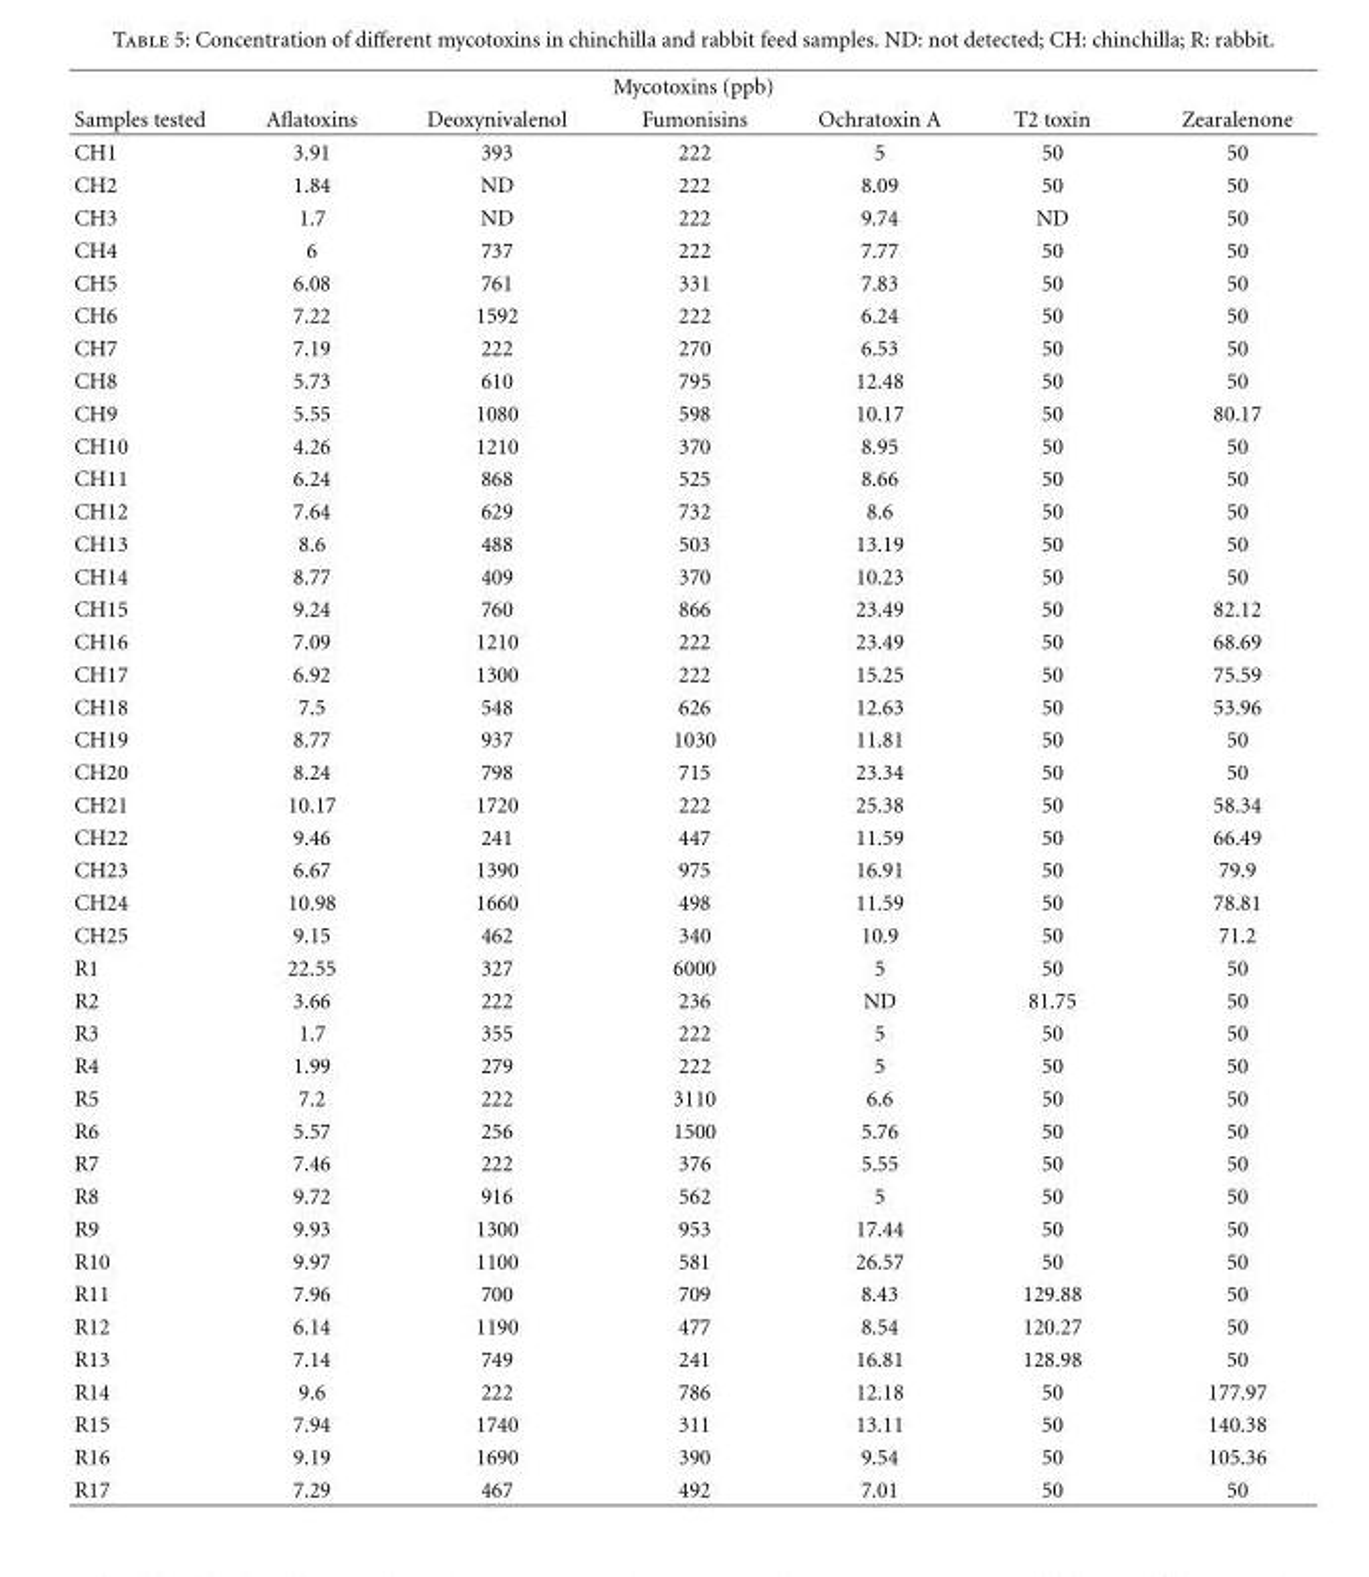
<table><thead><tr><td colspan="7">Mycotoxins (ppb)</td></tr><tr><td>Samples tested</td><td>Aflatoxins</td><td>Deoxynivalenol</td><td>Fumonisins</td><td>Ochratoxin A</td><td>T2 toxin</td><td>Zearalenone</td></tr></thead><tbody><tr><td>CH1</td><td>3.91</td><td>393</td><td>222</td><td>5</td><td>50</td><td>50</td></tr><tr><td>CH2</td><td>1.84</td><td>ND</td><td>222</td><td>8.09</td><td>50</td><td>50</td></tr><tr><td>CH3</td><td>1.7</td><td>ND</td><td>222</td><td>9.74</td><td>ND</td><td>50</td></tr><tr><td>CH4</td><td>6</td><td>737</td><td>222</td><td>7.77</td><td>50</td><td>50</td></tr><tr><td>CH5</td><td>6.08</td><td>761</td><td>331</td><td>7.83</td><td>50</td><td>50</td></tr><tr><td>CH6</td><td>7.22</td><td>1592</td><td>222</td><td>6.24</td><td>50</td><td>50</td></tr><tr><td>CH7</td><td>7.19</td><td>222</td><td>270</td><td>6.53</td><td>50</td><td>50</td></tr><tr><td>CH8</td><td>5.73</td><td>610</td><td>795</td><td>12.48</td><td>50</td><td>50</td></tr><tr><td>CH9</td><td>5.55</td><td>1080</td><td>598</td><td>10.17</td><td>50</td><td>80.17</td></tr><tr><td>CH10</td><td>4.26</td><td>1210</td><td>370</td><td>8.95</td><td>50</td><td>50</td></tr><tr><td>CH11</td><td>6.24</td><td>868</td><td>525</td><td>8.66</td><td>50</td><td>50</td></tr><tr><td>CH12</td><td>7.64</td><td>629</td><td>732</td><td>8.6</td><td>50</td><td>50</td></tr><tr><td>CH13</td><td>8.6</td><td>488</td><td>503</td><td>13.19</td><td>50</td><td>50</td></tr><tr><td>CH14</td><td>8.77</td><td>409</td><td>370</td><td>10.23</td><td>50</td><td>50</td></tr><tr><td>CH15</td><td>9.24</td><td>760</td><td>866</td><td>23.49</td><td>50</td><td>82.12</td></tr><tr><td>CH16</td><td>7.09</td><td>1210</td><td>222</td><td>23.49</td><td>50</td><td>68.69</td></tr><tr><td>CH17</td><td>6.92</td><td>1300</td><td>222</td><td>15.25</td><td>50</td><td>75.59</td></tr><tr><td>CH18</td><td>7.5</td><td>548</td><td>626</td><td>12.63</td><td>50</td><td>53.96</td></tr><tr><td>CH19</td><td>8.77</td><td>937</td><td>1030</td><td>11.81</td><td>50</td><td>50</td></tr><tr><td>CH20</td><td>8.24</td><td>798</td><td>715</td><td>23.34</td><td>50</td><td>50</td></tr><tr><td>CH21</td><td>10.17</td><td>1720</td><td>222</td><td>25.38</td><td>50</td><td>58.34</td></tr><tr><td>CH22</td><td>9.46</td><td>241</td><td>447</td><td>11.59</td><td>50</td><td>66.49</td></tr><tr><td>CH23</td><td>6.67</td><td>1390</td><td>975</td><td>16.91</td><td>50</td><td>79.9</td></tr><tr><td>CH24</td><td>10.98</td><td>1660</td><td>498</td><td>11.59</td><td>50</td><td>78.81</td></tr><tr><td>CH25</td><td>9.15</td><td>462</td><td>340</td><td>10.9</td><td>50</td><td>71.2</td></tr><tr><td>R1</td><td>22.55</td><td>327</td><td>6000</td><td>5</td><td>50</td><td>50</td></tr><tr><td>R2</td><td>3.66</td><td>222</td><td>236</td><td>ND</td><td>81.75</td><td>50</td></tr><tr><td>R3</td><td>1.7</td><td>355</td><td>222</td><td>5</td><td>50</td><td>50</td></tr><tr><td>R4</td><td>1.99</td><td>279</td><td>222</td><td>5</td><td>50</td><td>50</td></tr><tr><td>R5</td><td>7.2</td><td>222</td><td>3110</td><td>6.6</td><td>50</td><td>50</td></tr><tr><td>R6</td><td>5.57</td><td>256</td><td>1500</td><td>5.76</td><td>50</td><td>50</td></tr><tr><td>R7</td><td>7.46</td><td>222</td><td>376</td><td>5.55</td><td>50</td><td>50</td></tr><tr><td>R8</td><td>9.72</td><td>916</td><td>562</td><td>5</td><td>50</td><td>50</td></tr><tr><td>R9</td><td>9.93</td><td>1300</td><td>953</td><td>17.44</td><td>50</td><td>50</td></tr><tr><td>R10</td><td>9.97</td><td>1100</td><td>581</td><td>26.57</td><td>50</td><td>50</td></tr><tr><td>R11</td><td>7.96</td><td>700</td><td>709</td><td>8.43</td><td>129.88</td><td>50</td></tr><tr><td>R12</td><td>6.14</td><td>1190</td><td>477</td><td>8.54</td><td>120.27</td><td>50</td></tr><tr><td>R13</td><td>7.14</td><td>749</td><td>241</td><td>16.81</td><td>128.98</td><td>50</td></tr><tr><td>R14</td><td>9.6</td><td>222</td><td>786</td><td>12.18</td><td>50</td><td>177.97</td></tr><tr><td>R15</td><td>7.94</td><td>1740</td><td>311</td><td>13.11</td><td>50</td><td>140.38</td></tr><tr><td>R16</td><td>9.19</td><td>1690</td><td>390</td><td>9.54</td><td>50</td><td>105.36</td></tr><tr><td>R17</td><td>7.29</td><td>467</td><td>492</td><td>7.01</td><td>50</td><td>50</td></tr></tbody></table>